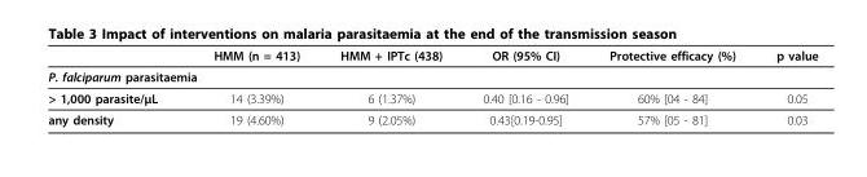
<table><thead><tr><td></td><td>HMM (n = 413)</td><td>HMM + IPTc (438)</td><td>OR (95% CI)</td><td>Protective efficacy (%)</td><td>p value</td></tr></thead><tbody><tr><td colspan="6">P. falciparum parasitaemia</td></tr><tr><td>&gt; 1,000 parasite/μL</td><td>14 (3.39%)</td><td>6 (1.37%)</td><td>0.40 [0.16 - 0.96]</td><td>60% [04 - 84]</td><td>0.05</td></tr><tr><td>any density</td><td>19 (4.60%)</td><td>9 (2.05%)</td><td>0.43[0.19-0.95]</td><td>57% [05 - 81]</td><td>0.03</td></tr></tbody></table>